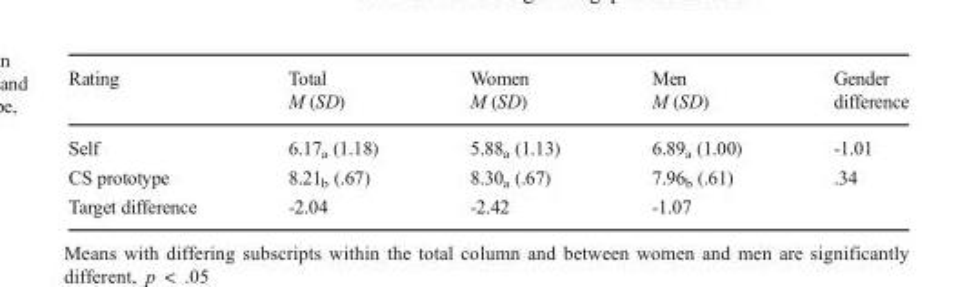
<table><thead><tr><td>Rating</td><td>Total M (SD)</td><td>Women M (SD)</td><td>Men M (SD)</td><td>Gender difference</td></tr></thead><tbody><tr><td>Self</td><td>6.17<sub>a</sub> (1.18)</td><td>5.88<sub>a</sub> (1.13)</td><td>6.89<sub>a</sub> (1.00)</td><td>-1.01</td></tr><tr><td>CS prototype</td><td>8.21<sub>b</sub> (.67)</td><td>8.30<sub>a</sub> (.67)</td><td>7.96<sub>b</sub> (.61)</td><td>.34</td></tr><tr><td>Target difference</td><td>-2.04</td><td>-2.42</td><td>-1.07</td><td></td></tr></tbody></table>